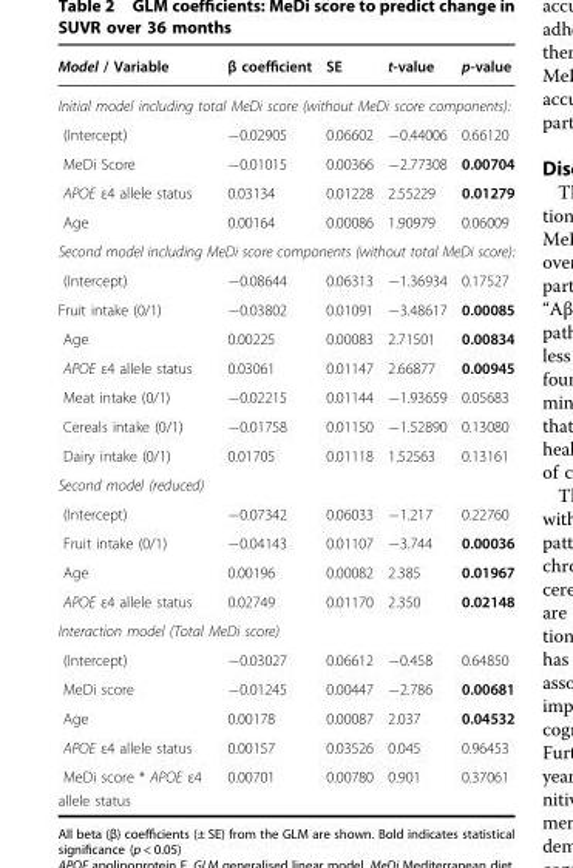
<table><thead><tr><td>Model / Variable</td><td>β coefficient</td><td>SE</td><td>t-value</td><td>p-value</td></tr></thead><tbody><tr><td colspan="5">Initial model including total MeDi score (without MeDi score components):</td></tr><tr><td>(Intercept)</td><td>−0.02905</td><td>0.06602</td><td>−0.44006</td><td>0.66120</td></tr><tr><td>MeDi Score</td><td>−0.01015</td><td>0.00366</td><td>−2.77308</td><td>0.00704</td></tr><tr><td>APOE ε4 allele status</td><td>0.03134</td><td>0.01228</td><td>2.55229</td><td>0.01279</td></tr><tr><td>Age</td><td>0.00164</td><td>0.00086</td><td>1.90979</td><td>0.06009</td></tr><tr><td colspan="5">Second model including MeDi score components (without total MeDi score):</td></tr><tr><td>(Intercept)</td><td>−0.08644</td><td>0.06313</td><td>−1.36934</td><td>0.17527</td></tr><tr><td>Fruit intake (0/1)</td><td>−0.03802</td><td>0.01091</td><td>−3.48617</td><td>0.00085</td></tr><tr><td>Age</td><td>0.00225</td><td>0.00083</td><td>2.71501</td><td>0.00834</td></tr><tr><td>APOE ε4 allele status</td><td>0.03061</td><td>0.01147</td><td>2.66877</td><td>0.00945</td></tr><tr><td>Meat intake (0/1)</td><td>−0.02215</td><td>0.01144</td><td>−1.93659</td><td>0.05683</td></tr><tr><td>Cereals intake (0/1)</td><td>−0.01758</td><td>0.01150</td><td>−1.52890</td><td>0.13080</td></tr><tr><td>Dairy intake (0/1)</td><td>0.01705</td><td>0.01118</td><td>1.52563</td><td>0.13161</td></tr><tr><td colspan="5">Second model (reduced)</td></tr><tr><td>(Intercept)</td><td>−0.07342</td><td>0.06033</td><td>−1.217</td><td>0.22760</td></tr><tr><td>Fruit intake (0/1)</td><td>−0.04143</td><td>0.01107</td><td>−3.744</td><td>0.00036</td></tr><tr><td>Age</td><td>0.00196</td><td>0.00082</td><td>2.385</td><td>0.01967</td></tr><tr><td>APOE ε4 allele status</td><td>0.02749</td><td>0.01170</td><td>2.350</td><td>0.02148</td></tr><tr><td colspan="5">Interaction model (Total MeDi score)</td></tr><tr><td>(Intercept)</td><td>−0.03027</td><td>0.06612</td><td>−0.458</td><td>0.64850</td></tr><tr><td>MeDi score</td><td>−0.01245</td><td>0.00447</td><td>−2.786</td><td>0.00681</td></tr><tr><td>Age</td><td>0.00178</td><td>0.00087</td><td>2.037</td><td>0.04532</td></tr><tr><td>APOE ε4 allele status</td><td>0.00157</td><td>0.03526</td><td>0.045</td><td>0.96453</td></tr><tr><td>MeDi score * APOE ε4 allele status</td><td>0.00701</td><td>0.00780</td><td>0.901</td><td>0.37061</td></tr></tbody></table>